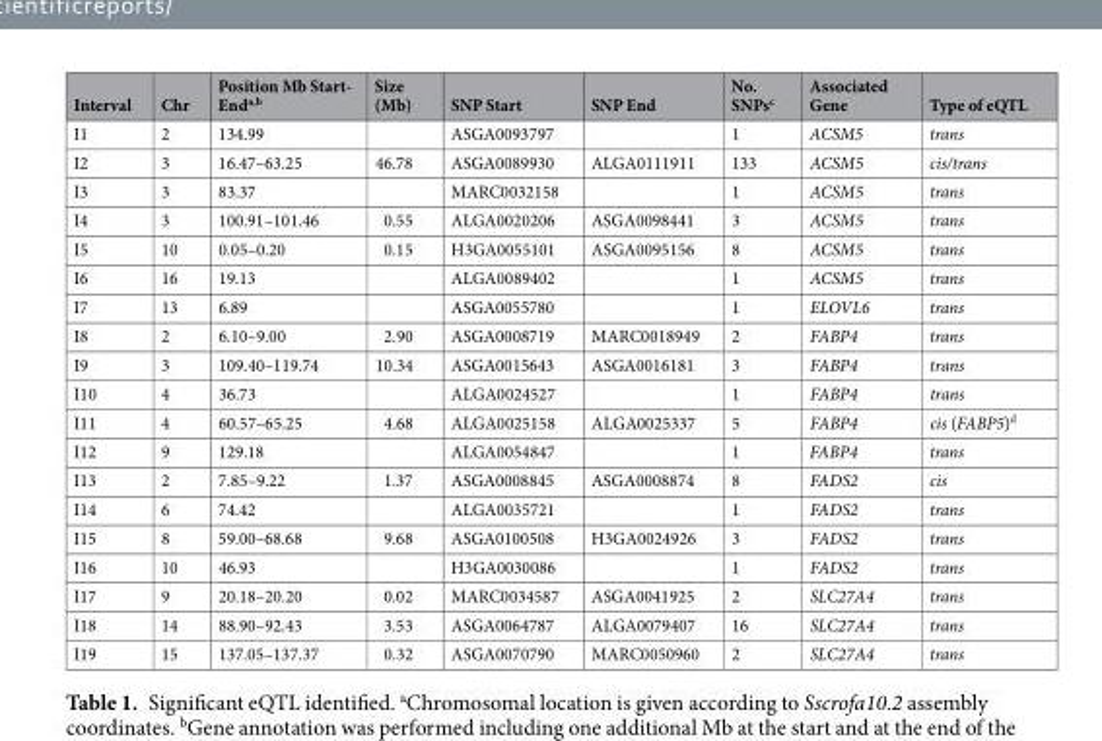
<table><thead><tr><td>Interval</td><td>Chr</td><td>Position Mb Start- End<sup>a,b</sup></td><td>Size (Mb)</td><td>SNP Start</td><td>SNP End</td><td>No. SNPs<sup>c</sup></td><td>Associated Gene</td><td>Type of eQTL</td></tr></thead><tbody><tr><td>I1</td><td>2</td><td>134.99</td><td></td><td>ASGA0093797</td><td></td><td>1</td><td>ACSM5</td><td>trans</td></tr><tr><td>I2</td><td>3</td><td>16.47–63.25</td><td>46.78</td><td>ASGA0089930</td><td>ALGA0111911</td><td>133</td><td>ACSM5</td><td>cis/trans</td></tr><tr><td>I3</td><td>3</td><td>83.37</td><td></td><td>MARC0032158</td><td></td><td>1</td><td>ACSM5</td><td>trans</td></tr><tr><td>I4</td><td>3</td><td>100.91–101.46</td><td>0.55</td><td>ALGA0020206</td><td>ASGA0098441</td><td>3</td><td>ACSM5</td><td>trans</td></tr><tr><td>I5</td><td>10</td><td>0.05–0.20</td><td>0.15</td><td>H3GA0055101</td><td>ASGA0095156</td><td>8</td><td>ACSM5</td><td>trans</td></tr><tr><td>I6</td><td>16</td><td>19.13</td><td></td><td>ALGA0089402</td><td></td><td>1</td><td>ACSM5</td><td>trans</td></tr><tr><td>I7</td><td>13</td><td>6.89</td><td></td><td>ASGA0055780</td><td></td><td>1</td><td>ELOVL6</td><td>trans</td></tr><tr><td>I8</td><td>2</td><td>6.10–9.00</td><td>2.90</td><td>ASGA0008719</td><td>MARC0018949</td><td>2</td><td>FABP4</td><td>trans</td></tr><tr><td>I9</td><td>3</td><td>109.40–119.74</td><td>10.34</td><td>ASGA0015643</td><td>ASGA0016181</td><td>3</td><td>FABP4</td><td>trans</td></tr><tr><td>I10</td><td>4</td><td>36.73</td><td></td><td>ALGA0024527</td><td></td><td>1</td><td>FABP4</td><td>trans</td></tr><tr><td>I11</td><td>4</td><td>60.57–65.25</td><td>4.68</td><td>ALGA0025158</td><td>ALGA0025337</td><td>5</td><td>FABP4</td><td>cis (FABP5)<sup>d</sup></td></tr><tr><td>I12</td><td>9</td><td>129.18</td><td></td><td>ALGA0054847</td><td></td><td>1</td><td>FABP4</td><td>trans</td></tr><tr><td>I13</td><td>2</td><td>7.85–9.22</td><td>1.37</td><td>ASGA0008845</td><td>ASGA0008874</td><td>8</td><td>FADS2</td><td>cis</td></tr><tr><td>I14</td><td>6</td><td>74.42</td><td></td><td>ALGA0035721</td><td></td><td>1</td><td>FADS2</td><td>trans</td></tr><tr><td>I15</td><td>8</td><td>59.00–68.68</td><td>9.68</td><td>ASGA0100508</td><td>H3GA0024926</td><td>3</td><td>FADS2</td><td>trans</td></tr><tr><td>I16</td><td>10</td><td>46.93</td><td></td><td>H3GA0030086</td><td></td><td>1</td><td>FADS2</td><td>trans</td></tr><tr><td>I17</td><td>9</td><td>20.18–20.20</td><td>0.02</td><td>MARC0034587</td><td>ASGA0041925</td><td>2</td><td>SLC27A4</td><td>trans</td></tr><tr><td>I18</td><td>14</td><td>88.90–92.43</td><td>3.53</td><td>ASGA0064787</td><td>ALGA0079407</td><td>16</td><td>SLC27A4</td><td>trans</td></tr><tr><td>I19</td><td>15</td><td>137.05–137.37</td><td>0.32</td><td>ASGA0070790</td><td>MARC0050960</td><td>2</td><td>SLC27A4</td><td>trans</td></tr></tbody></table>